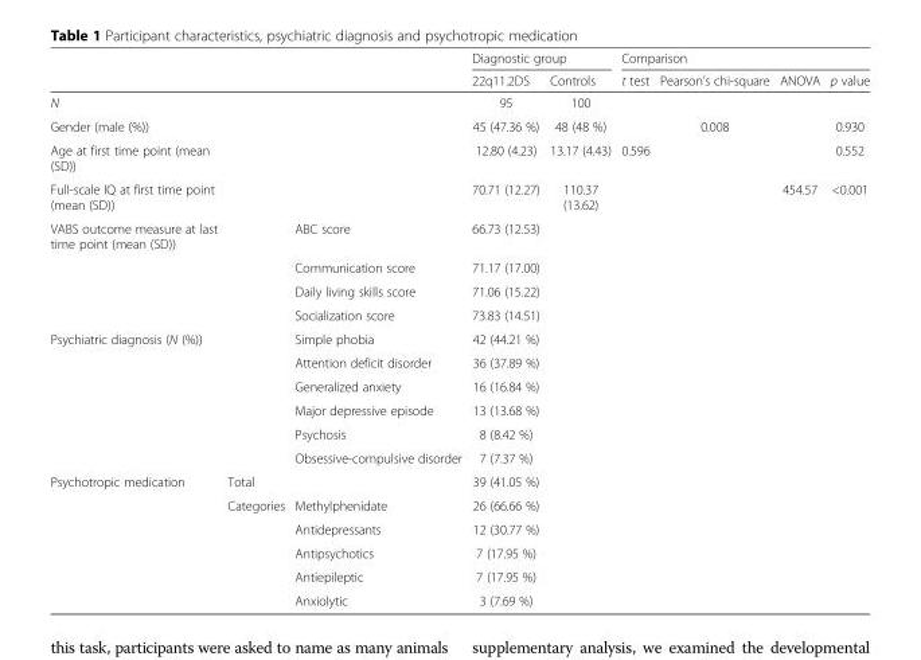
<table><thead><tr><td rowspan="2"></td><td rowspan="2"></td><td rowspan="2"></td><td colspan="2">Diagnostic group</td><td colspan="4">Comparison</td></tr><tr><td>22q11.2DS</td><td>Controls</td><td>t test</td><td>Pearson’s chi-square</td><td>ANOVA</td><td>p value</td></tr></thead><tbody><tr><td>N</td><td></td><td></td><td>95</td><td>100</td><td></td><td></td><td></td><td></td></tr><tr><td>Gender (male (%))</td><td></td><td></td><td>45 (47.36 %)</td><td>48 (48 %)</td><td></td><td>0.008</td><td></td><td>0.930</td></tr><tr><td>Age at first time point (mean (SD))</td><td></td><td></td><td>12.80 (4.23)</td><td>13.17 (4.43)</td><td>0.596</td><td></td><td></td><td>0.552</td></tr><tr><td>Full-scale IQ at first time point (mean (SD))</td><td></td><td></td><td>70.71 (12.27)</td><td>110.37 (13.62)</td><td></td><td></td><td>454.57</td><td>&lt;0.001</td></tr><tr><td rowspan="4">VABS outcome measure at last time point (mean (SD))</td><td></td><td>ABC score</td><td>66.73 (12.53)</td><td></td><td></td><td></td><td></td><td></td></tr><tr><td></td><td>Communication score</td><td>71.17 (17.00)</td><td></td><td></td><td></td><td></td><td></td></tr><tr><td></td><td>Daily living skills score</td><td>71.06 (15.22)</td><td></td><td></td><td></td><td></td><td></td></tr><tr><td></td><td>Socialization score</td><td>73.83 (14.51)</td><td></td><td></td><td></td><td></td><td></td></tr><tr><td rowspan="6">Psychiatric diagnosis (N (%))</td><td></td><td>Simple phobia</td><td>42 (44.21 %)</td><td></td><td></td><td></td><td></td><td></td></tr><tr><td></td><td>Attention deficit disorder</td><td>36 (37.89 %)</td><td></td><td></td><td></td><td></td><td></td></tr><tr><td></td><td>Generalized anxiety</td><td>16 (16.84 %)</td><td></td><td></td><td></td><td></td><td></td></tr><tr><td></td><td>Major depressive episode</td><td>13 (13.68 %)</td><td></td><td></td><td></td><td></td><td></td></tr><tr><td></td><td>Psychosis</td><td>8 (8.42 %)</td><td></td><td></td><td></td><td></td><td></td></tr><tr><td></td><td>Obsessive-compulsive disorder</td><td>7 (7.37 %)</td><td></td><td></td><td></td><td></td><td></td></tr><tr><td rowspan="6">Psychotropic medication</td><td>Total</td><td></td><td>39 (41.05 %)</td><td></td><td></td><td></td><td></td><td></td></tr><tr><td>Categories</td><td>Methylphenidate</td><td>26 (66.66 %)</td><td></td><td></td><td></td><td></td><td></td></tr><tr><td></td><td>Antidepressants</td><td>12 (30.77 %)</td><td></td><td></td><td></td><td></td><td></td></tr><tr><td></td><td>Antipsychotics</td><td>7 (17.95 %)</td><td></td><td></td><td></td><td></td><td></td></tr><tr><td></td><td>Antiepileptic</td><td>7 (17.95 %)</td><td></td><td></td><td></td><td></td><td></td></tr><tr><td></td><td>Anxiolytic</td><td>3 (7.69 %)</td><td></td><td></td><td></td><td></td><td></td></tr></tbody></table>